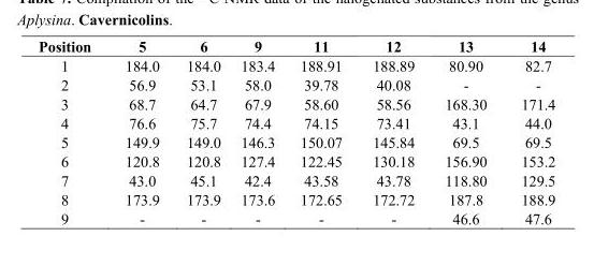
<table><thead><tr><td>Position</td><td>5</td><td>6</td><td>9</td><td>11</td><td>12</td><td>13</td><td>14</td></tr></thead><tbody><tr><td>1</td><td>184.0</td><td>184.0</td><td>183.4</td><td>188.91</td><td>188.89</td><td>80.90</td><td>82.7</td></tr><tr><td>2</td><td>56.9</td><td>53.1</td><td>58.0</td><td>39.78</td><td>40.08</td><td>-</td><td>-</td></tr><tr><td>3</td><td>68.7</td><td>64.7</td><td>67.9</td><td>58.60</td><td>58.56</td><td>168.30</td><td>171.4</td></tr><tr><td>4</td><td>76.6</td><td>75.7</td><td>74.4</td><td>74.15</td><td>73.41</td><td>43.1</td><td>44.0</td></tr><tr><td>5</td><td>149.9</td><td>149.0</td><td>146.3</td><td>150.07</td><td>145.84</td><td>69.5</td><td>69.5</td></tr><tr><td>6</td><td>120.8</td><td>120.8</td><td>127.4</td><td>122.45</td><td>130.18</td><td>156.90</td><td>153.2</td></tr><tr><td>7</td><td>43.0</td><td>45.1</td><td>42.4</td><td>43.58</td><td>43.78</td><td>118.80</td><td>129.5</td></tr><tr><td>8</td><td>173.9</td><td>173.9</td><td>173.6</td><td>172.65</td><td>172.72</td><td>187.8</td><td>188.9</td></tr><tr><td>9</td><td>-</td><td>-</td><td>-</td><td>-</td><td>-</td><td>46.6</td><td>47.6</td></tr></tbody></table>